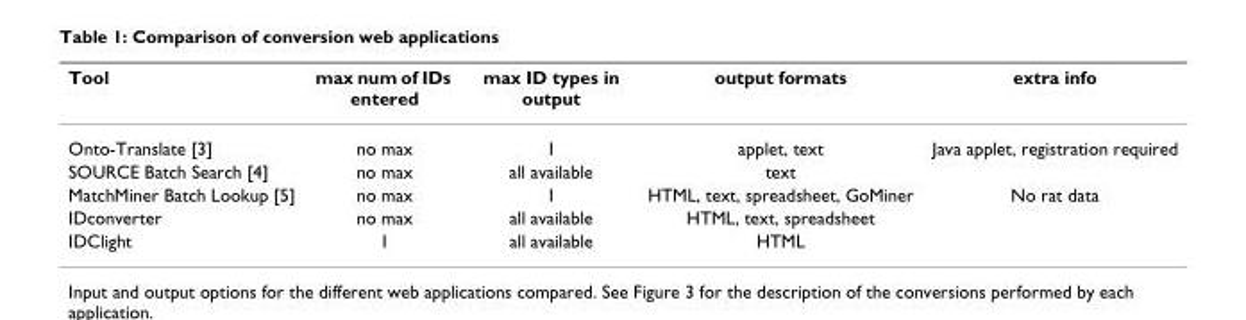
<table><thead><tr><td>Tool</td><td>max num of IDs entered</td><td>max ID types in output</td><td>output formats</td><td>extra info</td></tr></thead><tbody><tr><td>Onto-Translate [3]</td><td>no max</td><td>1</td><td>applet, text</td><td>Java applet, registration required</td></tr><tr><td>SOURCE Batch Search [4]</td><td>no max</td><td>all available</td><td>text</td><td></td></tr><tr><td>MatchMiner Batch Lookup [5]</td><td>no max</td><td>1</td><td>HTML, text, spreadsheet, GoMiner</td><td>No rat data</td></tr><tr><td>IDconverter</td><td>no max</td><td>all available</td><td>HTML, text, spreadsheet</td><td></td></tr><tr><td>IDClight</td><td>1</td><td>all available</td><td>HTML</td><td></td></tr></tbody></table>